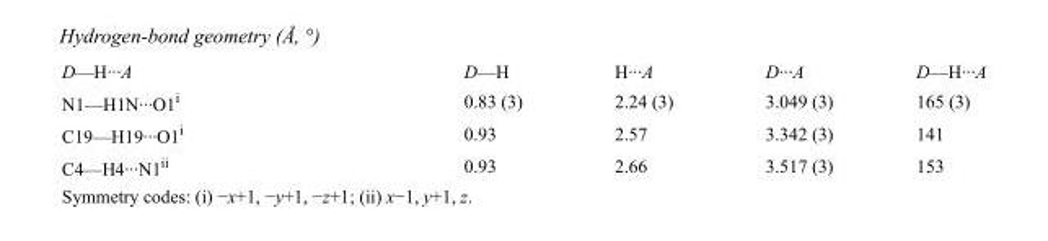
<table><tbody><tr><td>D—H···A</td><td>D—H</td><td>H···A</td><td>D···A</td><td>D—H···A</td></tr><tr><td>N1—H1N···O1<sup>i</sup></td><td>0.83 (3)</td><td>2.24 (3)</td><td>3.049 (3)</td><td>165 (3)</td></tr><tr><td>C19—H19···O1<sup>i</sup></td><td>0.93</td><td>2.57</td><td>3.342 (3)</td><td>141</td></tr><tr><td>C4—H4···N1<sup>ii</sup></td><td>0.93</td><td>2.66</td><td>3.517 (3)</td><td>153</td></tr></tbody></table>